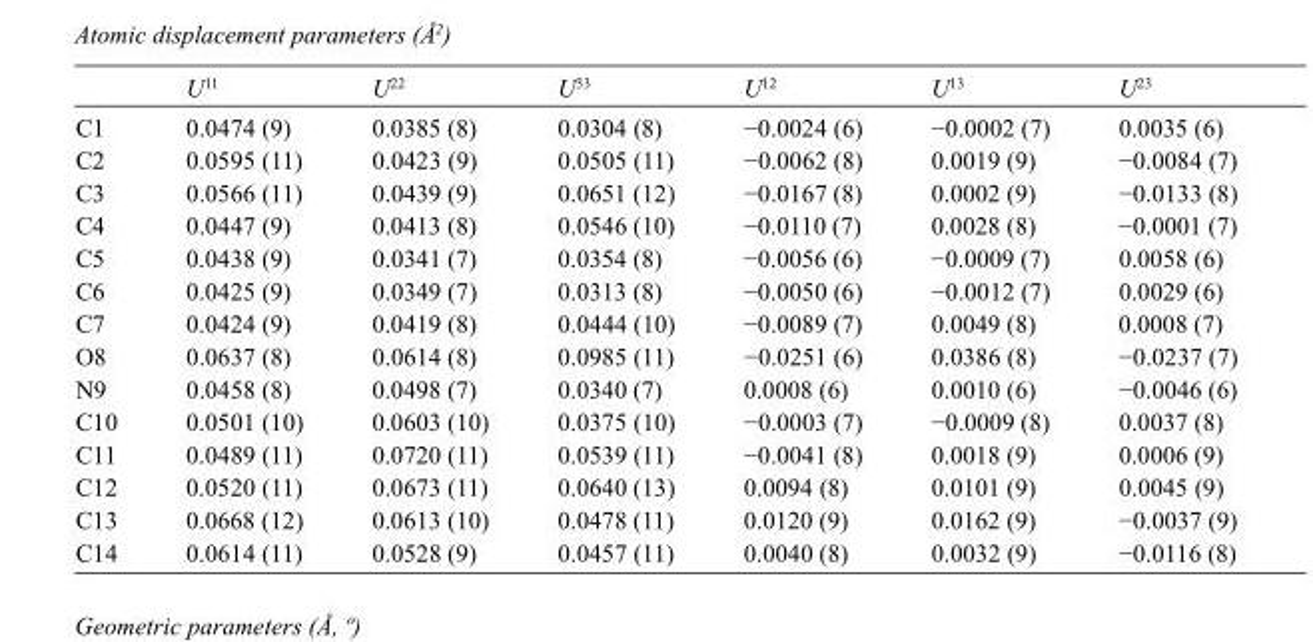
<table><thead><tr><td></td><td>U<sup>11</sup></td><td>U<sup>22</sup></td><td>U<sup>33</sup></td><td>U<sup>12</sup></td><td>U<sup>13</sup></td><td>U<sup>23</sup></td></tr></thead><tbody><tr><td>C1</td><td>0.0474 (9)</td><td>0.0385 (8)</td><td>0.0304 (8)</td><td>−0.0024 (6)</td><td>−0.0002 (7)</td><td>0.0035 (6)</td></tr><tr><td>C2</td><td>0.0595 (11)</td><td>0.0423 (9)</td><td>0.0505 (11)</td><td>−0.0062 (8)</td><td>0.0019 (9)</td><td>−0.0084 (7)</td></tr><tr><td>C3</td><td>0.0566 (11)</td><td>0.0439 (9)</td><td>0.0651 (12)</td><td>−0.0167 (8)</td><td>0.0002 (9)</td><td>−0.0133 (8)</td></tr><tr><td>C4</td><td>0.0447 (9)</td><td>0.0413 (8)</td><td>0.0546 (10)</td><td>−0.0110 (7)</td><td>0.0028 (8)</td><td>−0.0001 (7)</td></tr><tr><td>C5</td><td>0.0438 (9)</td><td>0.0341 (7)</td><td>0.0354 (8)</td><td>−0.0056 (6)</td><td>−0.0009 (7)</td><td>0.0058 (6)</td></tr><tr><td>C6</td><td>0.0425 (9)</td><td>0.0349 (7)</td><td>0.0313 (8)</td><td>−0.0050 (6)</td><td>−0.0012 (7)</td><td>0.0029 (6)</td></tr><tr><td>C7</td><td>0.0424 (9)</td><td>0.0419 (8)</td><td>0.0444 (10)</td><td>−0.0089 (7)</td><td>0.0049 (8)</td><td>0.0008 (7)</td></tr><tr><td>O8</td><td>0.0637 (8)</td><td>0.0614 (8)</td><td>0.0985 (11)</td><td>−0.0251 (6)</td><td>0.0386 (8)</td><td>−0.0237 (7)</td></tr><tr><td>N9</td><td>0.0458 (8)</td><td>0.0498 (7)</td><td>0.0340 (7)</td><td>0.0008 (6)</td><td>0.0010 (6)</td><td>−0.0046 (6)</td></tr><tr><td>C10</td><td>0.0501 (10)</td><td>0.0603 (10)</td><td>0.0375 (10)</td><td>−0.0003 (7)</td><td>−0.0009 (8)</td><td>0.0037 (8)</td></tr><tr><td>C11</td><td>0.0489 (11)</td><td>0.0720 (11)</td><td>0.0539 (11)</td><td>−0.0041 (8)</td><td>0.0018 (9)</td><td>0.0006 (9)</td></tr><tr><td>C12</td><td>0.0520 (11)</td><td>0.0673 (11)</td><td>0.0640 (13)</td><td>0.0094 (8)</td><td>0.0101 (9)</td><td>0.0045 (9)</td></tr><tr><td>C13</td><td>0.0668 (12)</td><td>0.0613 (10)</td><td>0.0478 (11)</td><td>0.0120 (9)</td><td>0.0162 (9)</td><td>−0.0037 (9)</td></tr><tr><td>C14</td><td>0.0614 (11)</td><td>0.0528 (9)</td><td>0.0457 (11)</td><td>0.0040 (8)</td><td>0.0032 (9)</td><td>−0.0116 (8)</td></tr></tbody></table>